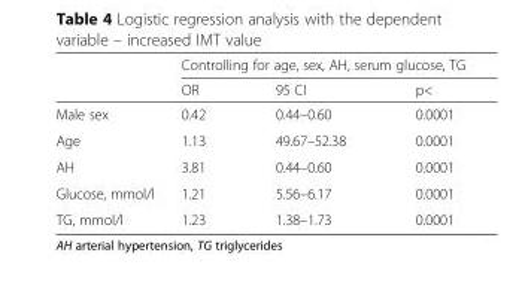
<table><thead><tr><td rowspan="2"></td><td colspan="3">Controlling for age, sex, AH, serum glucose, TG</td></tr><tr><td>OR</td><td>95 CI</td><td>p&lt;</td></tr></thead><tbody><tr><td>Male sex</td><td>0.42</td><td>0.44–0.60</td><td>0.0001</td></tr><tr><td>Age</td><td>1.13</td><td>49.67–52.38</td><td>0.0001</td></tr><tr><td>AH</td><td>3.81</td><td>0.44–0.60</td><td>0.0001</td></tr><tr><td>Glucose, mmol/l</td><td>1.21</td><td>5.56–6.17</td><td>0.0001</td></tr><tr><td>TG, mmol/l</td><td>1.23</td><td>1.38–1.73</td><td>0.0001</td></tr></tbody></table>